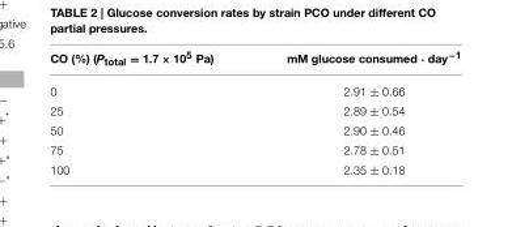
<table><thead><tr><td>CO (%) (P<sub>total</sub> = 1.7 × 10<sup>5</sup> Pa)</td><td>mM glucose consumed · day<sup>−1</sup></td></tr></thead><tbody><tr><td>0</td><td>2.91 ± 0.66</td></tr><tr><td>25</td><td>2.89 ± 0.54</td></tr><tr><td>50</td><td>2.90 ± 0.46</td></tr><tr><td>75</td><td>2.78 ± 0.51</td></tr><tr><td>100</td><td>2.35 ± 0.18</td></tr></tbody></table>